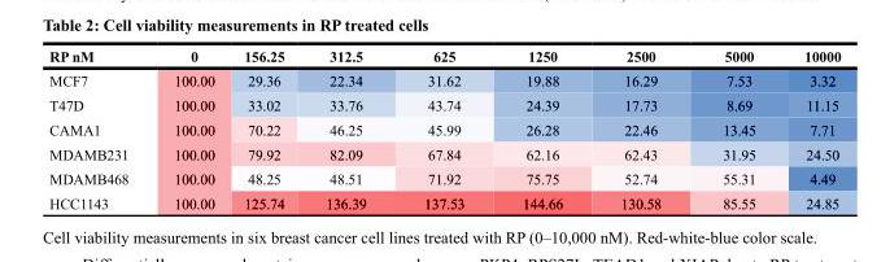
<table><thead><tr><td>RP nM</td><td>0</td><td>156.25</td><td>312.5</td><td>625</td><td>1250</td><td>2500</td><td>5000</td><td>10000</td></tr></thead><tbody><tr><td>MCF7</td><td>100.00</td><td>29.36</td><td>22.34</td><td>31.62</td><td>19.88</td><td>16.29</td><td>7.53</td><td>3.32</td></tr><tr><td>T47D</td><td>100.00</td><td>33.02</td><td>33.76</td><td>43.74</td><td>24.39</td><td>17.73</td><td>8.69</td><td>11.15</td></tr><tr><td>CAMA1</td><td>100.00</td><td>70.22</td><td>46.25</td><td>45.99</td><td>26.28</td><td>22.46</td><td>13.45</td><td>7.71</td></tr><tr><td>MDAMB231</td><td>100.00</td><td>79.92</td><td>82.09</td><td>67.84</td><td>62.16</td><td>62.43</td><td>31.95</td><td>24.50</td></tr><tr><td>MDAMB468</td><td>100.00</td><td>48.25</td><td>48.51</td><td>71.92</td><td>75.75</td><td>52.74</td><td>55.31</td><td>4.49</td></tr><tr><td>HCC1143</td><td>100.00</td><td>125.74</td><td>136.39</td><td>137.53</td><td>144.66</td><td>130.58</td><td>85.55</td><td>24.85</td></tr></tbody></table>